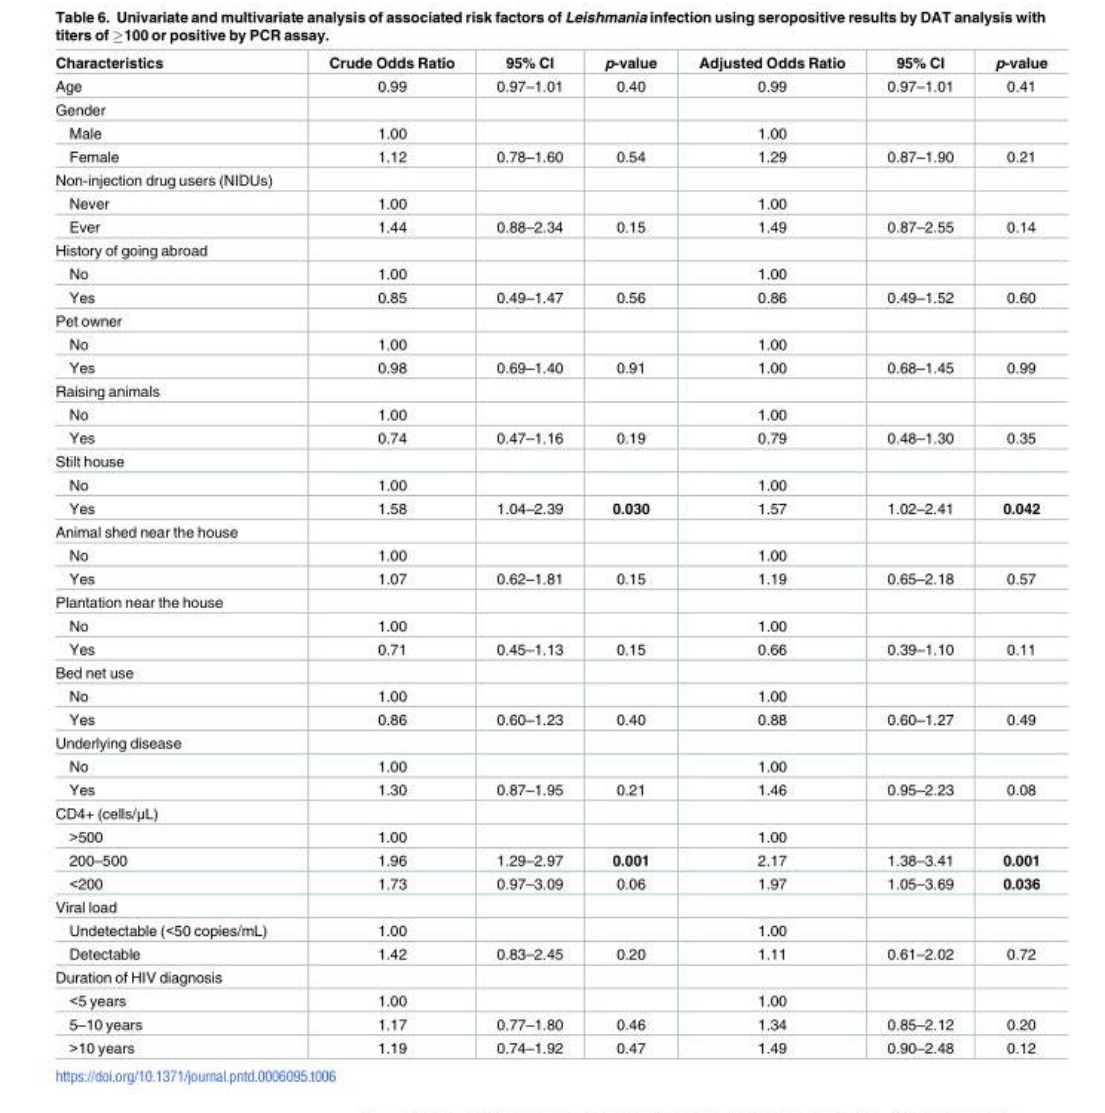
<table><thead><tr><td>Characteristics</td><td>Crude Odds Ratio</td><td>95% CI</td><td>p-value</td><td>Adjusted Odds Ratio</td><td>95% CI</td><td>p-value</td></tr></thead><tbody><tr><td>Age</td><td>0.99</td><td>0.97–1.01</td><td>0.40</td><td>0.99</td><td>0.97–1.01</td><td>0.41</td></tr><tr><td colspan="7">Gender</td></tr><tr><td>Male</td><td>1.00</td><td></td><td></td><td>1.00</td><td></td><td></td></tr><tr><td>Female</td><td>1.12</td><td>0.78–1.60</td><td>0.54</td><td>1.29</td><td>0.87–1.90</td><td>0.21</td></tr><tr><td colspan="7">Non-injection drug users (NIDUs)</td></tr><tr><td>Never</td><td>1.00</td><td></td><td></td><td>1.00</td><td></td><td></td></tr><tr><td>Ever</td><td>1.44</td><td>0.88–2.34</td><td>0.15</td><td>1.49</td><td>0.87–2.55</td><td>0.14</td></tr><tr><td colspan="7">History of going abroad</td></tr><tr><td>No</td><td>1.00</td><td></td><td></td><td>1.00</td><td></td><td></td></tr><tr><td>Yes</td><td>0.85</td><td>0.49–1.47</td><td>0.56</td><td>0.86</td><td>0.49–1.52</td><td>0.60</td></tr><tr><td colspan="7">Pet owner</td></tr><tr><td>No</td><td>1.00</td><td></td><td></td><td>1.00</td><td></td><td></td></tr><tr><td>Yes</td><td>0.98</td><td>0.69–1.40</td><td>0.91</td><td>1.00</td><td>0.68–1.45</td><td>0.99</td></tr><tr><td colspan="7">Raising animals</td></tr><tr><td>No</td><td>1.00</td><td></td><td></td><td>1.00</td><td></td><td></td></tr><tr><td>Yes</td><td>0.74</td><td>0.47–1.16</td><td>0.19</td><td>0.79</td><td>0.48–1.30</td><td>0.35</td></tr><tr><td colspan="7">Stilt house</td></tr><tr><td>No</td><td>1.00</td><td></td><td></td><td>1.00</td><td></td><td></td></tr><tr><td>Yes</td><td>1.58</td><td>1.04–2.39</td><td>0.030</td><td>1.57</td><td>1.02–2.41</td><td>0.042</td></tr><tr><td colspan="7">Animal shed near the house</td></tr><tr><td>No</td><td>1.00</td><td></td><td></td><td>1.00</td><td></td><td></td></tr><tr><td>Yes</td><td>1.07</td><td>0.62–1.81</td><td>0.15</td><td>1.19</td><td>0.65–2.18</td><td>0.57</td></tr><tr><td colspan="7">Plantation near the house</td></tr><tr><td>No</td><td>1.00</td><td></td><td></td><td>1.00</td><td></td><td></td></tr><tr><td>Yes</td><td>0.71</td><td>0.45–1.13</td><td>0.15</td><td>0.66</td><td>0.39–1.10</td><td>0.11</td></tr><tr><td colspan="7">Bed net use</td></tr><tr><td>No</td><td>1.00</td><td></td><td></td><td>1.00</td><td></td><td></td></tr><tr><td>Yes</td><td>0.86</td><td>0.60–1.23</td><td>0.40</td><td>0.88</td><td>0.60–1.27</td><td>0.49</td></tr><tr><td colspan="7">Underlying disease</td></tr><tr><td>No</td><td>1.00</td><td></td><td></td><td>1.00</td><td></td><td></td></tr><tr><td>Yes</td><td>1.30</td><td>0.87–1.95</td><td>0.21</td><td>1.46</td><td>0.95–2.23</td><td>0.08</td></tr><tr><td colspan="7">CD4+ (cells/μL)</td></tr><tr><td>&gt;500</td><td>1.00</td><td></td><td></td><td>1.00</td><td></td><td></td></tr><tr><td>200–500</td><td>1.96</td><td>1.29–2.97</td><td>0.001</td><td>2.17</td><td>1.38–3.41</td><td>0.001</td></tr><tr><td>&lt;200</td><td>1.73</td><td>0.97–3.09</td><td>0.06</td><td>1.97</td><td>1.05–3.69</td><td>0.036</td></tr><tr><td colspan="7">Viral load</td></tr><tr><td>Undetectable (&lt;50 copies/mL)</td><td>1.00</td><td></td><td></td><td>1.00</td><td></td><td></td></tr><tr><td>Detectable</td><td>1.42</td><td>0.83–2.45</td><td>0.20</td><td>1.11</td><td>0.61–2.02</td><td>0.72</td></tr><tr><td colspan="7">Duration of HIV diagnosis</td></tr><tr><td>&lt;5 years</td><td>1.00</td><td></td><td></td><td>1.00</td><td></td><td></td></tr><tr><td>5–10 years</td><td>1.17</td><td>0.77–1.80</td><td>0.46</td><td>1.34</td><td>0.85–2.12</td><td>0.20</td></tr><tr><td>&gt;10 years</td><td>1.19</td><td>0.74–1.92</td><td>0.47</td><td>1.49</td><td>0.90–2.48</td><td>0.12</td></tr></tbody></table>